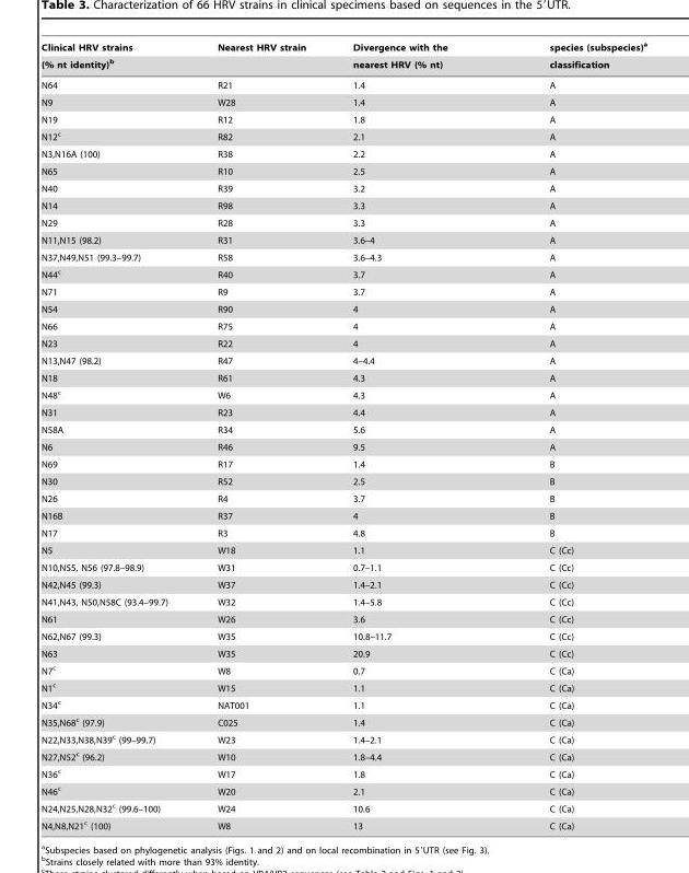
<table><thead><tr><td rowspan="2">Clinical HRV strains (% nt identity)<sup>b</sup></td><td rowspan="2">Nearest HRV strain</td><td rowspan="2">Divergence with the nearest HRV (% nt)</td><td rowspan="2">species (subspecies)<sup>a</sup> classification</td></tr><tr></tr></thead><tbody><tr><td>N64</td><td>R21</td><td>1.4</td><td>A</td></tr><tr><td>N9</td><td>W28</td><td>1.4</td><td>A</td></tr><tr><td>N19</td><td>R12</td><td>1.8</td><td>A</td></tr><tr><td>N12<sup>c</sup></td><td>R82</td><td>2.1</td><td>A</td></tr><tr><td>N3,N16A (100)</td><td>R38</td><td>2.2</td><td>A</td></tr><tr><td>N65</td><td>R10</td><td>2.5</td><td>A</td></tr><tr><td>N40</td><td>R39</td><td>3.2</td><td>A</td></tr><tr><td>N14</td><td>R98</td><td>3.3</td><td>A</td></tr><tr><td>N29</td><td>R28</td><td>3.3</td><td>A</td></tr><tr><td>N11,N15 (98.2)</td><td>R31</td><td>3.6–4</td><td>A</td></tr><tr><td>N37,N49,N51 (99.3–99.7)</td><td>R58</td><td>3.6–4.3</td><td>A</td></tr><tr><td>N44<sup>c</sup></td><td>R40</td><td>3.7</td><td>A</td></tr><tr><td>N71</td><td>R9</td><td>3.7</td><td>A</td></tr><tr><td>N54</td><td>R90</td><td>4</td><td>A</td></tr><tr><td>N66</td><td>R75</td><td>4</td><td>A</td></tr><tr><td>N23</td><td>R22</td><td>4</td><td>A</td></tr><tr><td>N13,N47 (98.2)</td><td>R47</td><td>4–4.4</td><td>A</td></tr><tr><td>N18</td><td>R61</td><td>4.3</td><td>A</td></tr><tr><td>N48<sup>c</sup></td><td>W6</td><td>4.3</td><td>A</td></tr><tr><td>N31</td><td>R23</td><td>4.4</td><td>A</td></tr><tr><td>N58A</td><td>R34</td><td>5.6</td><td>A</td></tr><tr><td>N6</td><td>R46</td><td>9.5</td><td>A</td></tr><tr><td>N69</td><td>R17</td><td>1.4</td><td>B</td></tr><tr><td>N30</td><td>R52</td><td>2.5</td><td>B</td></tr><tr><td>N26</td><td>R4</td><td>3.7</td><td>B</td></tr><tr><td>N16B</td><td>R37</td><td>4</td><td>B</td></tr><tr><td>N17</td><td>R3</td><td>4.8</td><td>B</td></tr><tr><td>N5</td><td>W18</td><td>1.1</td><td>C (Cc)</td></tr><tr><td>N10,N55, N56 (97.8–98.9)</td><td>W31</td><td>0.7–1.1</td><td>C (Cc)</td></tr><tr><td>N42,N45 (99.3)</td><td>W37</td><td>1.4–2.1</td><td>C (Cc)</td></tr><tr><td>N41,N43, N50,N58C (93.4–99.7)</td><td>W32</td><td>1.4–5.8</td><td>C (Cc)</td></tr><tr><td>N61</td><td>W26</td><td>3.6</td><td>C (Cc)</td></tr><tr><td>N62,N67 (99.3)</td><td>W35</td><td>10.8–11.7</td><td>C (Cc)</td></tr><tr><td>N63</td><td>W35</td><td>20.9</td><td>C (Cc)</td></tr><tr><td>N7<sup>c</sup></td><td>W8</td><td>0.7</td><td>C (Ca)</td></tr><tr><td>N1<sup>c</sup></td><td>W15</td><td>1.1</td><td>C (Ca)</td></tr><tr><td>N34<sup>c</sup></td><td>NAT001</td><td>1.1</td><td>C (Ca)</td></tr><tr><td>N35,N68<sup>c</sup> (97.9)</td><td>C025</td><td>1.4</td><td>C (Ca)</td></tr><tr><td>N22,N33,N38,N39<sup>c</sup> (99–99.7)</td><td>W23</td><td>1.4–2.1</td><td>C (Ca)</td></tr><tr><td>N27,N52<sup>c</sup> (96.2)</td><td>W10</td><td>1.8–4.4</td><td>C (Ca)</td></tr><tr><td>N36<sup>c</sup></td><td>W17</td><td>1.8</td><td>C (Ca)</td></tr><tr><td>N46<sup>c</sup></td><td>W20</td><td>2.1</td><td>C (Ca)</td></tr><tr><td>N24,N25,N28,N32<sup>c</sup> (99.6–100)</td><td>W24</td><td>10.6</td><td>C (Ca)</td></tr><tr><td>N4,N8,N21<sup>c</sup> (100)</td><td>W8</td><td>13</td><td>C (Ca)</td></tr></tbody></table>